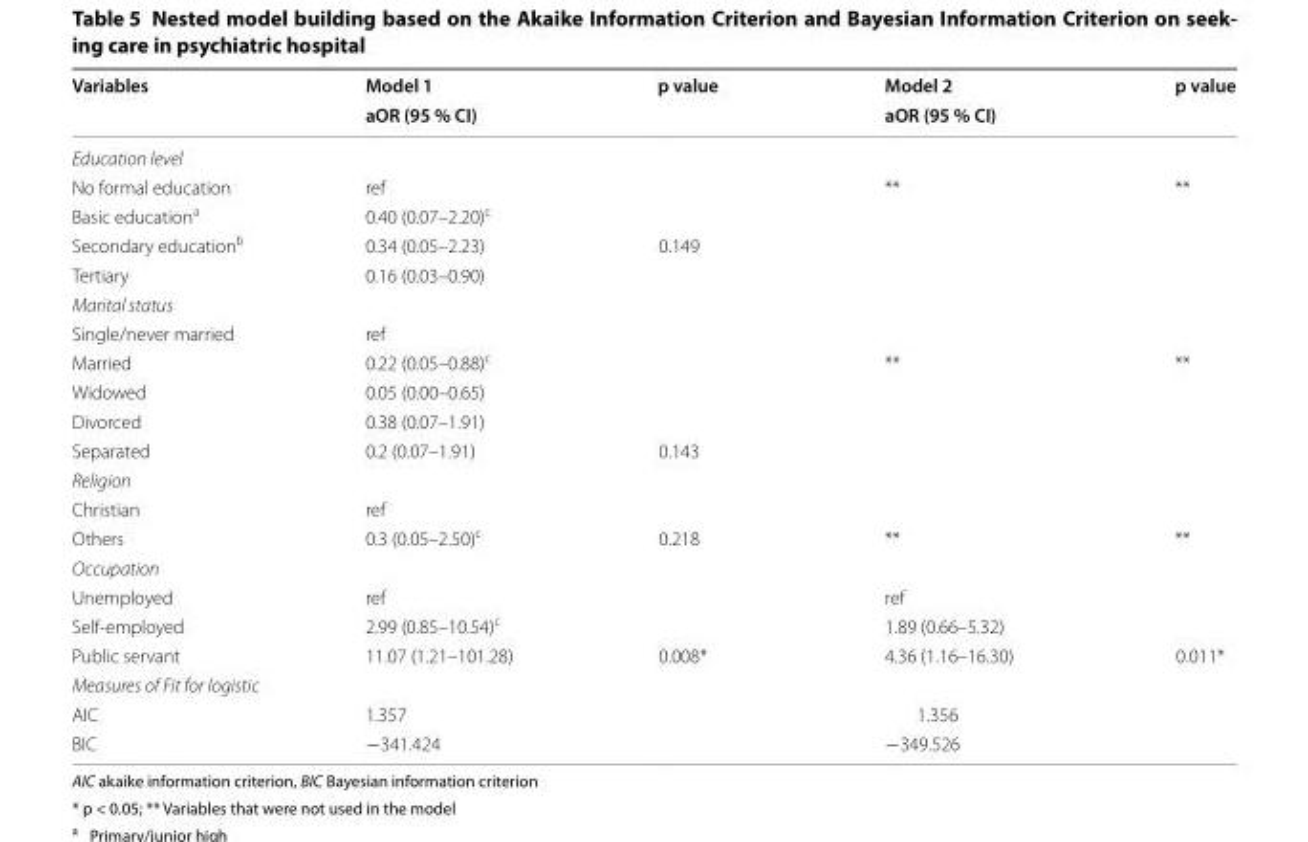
<table><thead><tr><td rowspan="2">Variables</td><td rowspan="2">Model 1 aOR (95 % CI)</td><td rowspan="2">p value</td><td rowspan="2">Model 2 aOR (95 % CI)</td><td rowspan="2">p value</td></tr><tr></tr></thead><tbody><tr><td colspan="5">Education level</td></tr><tr><td>No formal education</td><td>ref</td><td></td><td>**</td><td>**</td></tr><tr><td>Basic education<sup>a</sup></td><td>0.40 (0.07–2.20)<sup>c</sup></td><td></td><td></td><td></td></tr><tr><td>Secondary education<sup>b</sup></td><td>0.34 (0.05–2.23)</td><td>0.149</td><td></td><td></td></tr><tr><td>Tertiary</td><td>0.16 (0.03–0.90)</td><td></td><td></td><td></td></tr><tr><td colspan="5">Marital status</td></tr><tr><td>Single/never married</td><td>ref</td><td></td><td></td><td></td></tr><tr><td>Married</td><td>0.22 (0.05–0.88)<sup>c</sup></td><td></td><td>**</td><td>**</td></tr><tr><td>Widowed</td><td>0.05 (0.00–0.65)</td><td></td><td></td><td></td></tr><tr><td>Divorced</td><td>0.38 (0.07–1.91)</td><td></td><td></td><td></td></tr><tr><td>Separated</td><td>0.2 (0.07–1.91)</td><td>0.143</td><td></td><td></td></tr><tr><td colspan="5">Religion</td></tr><tr><td>Christian</td><td>ref</td><td></td><td></td><td></td></tr><tr><td>Others</td><td>0.3 (0.05–2.50)<sup>c</sup></td><td>0.218</td><td>**</td><td>**</td></tr><tr><td colspan="5">Occupation</td></tr><tr><td>Unemployed</td><td>ref</td><td></td><td>ref</td><td></td></tr><tr><td>Self-employed</td><td>2.99 (0.85–10.54)<sup>c</sup></td><td></td><td>1.89 (0.66–5.32)</td><td></td></tr><tr><td>Public servant</td><td>11.07 (1.21–101.28)</td><td>0.008*</td><td>4.36 (1.16–16.30)</td><td>0.011*</td></tr><tr><td colspan="5">Measures of Fit for logistic</td></tr><tr><td>AIC</td><td>1.357</td><td></td><td>1.356</td><td></td></tr><tr><td>BIC</td><td>−341.424</td><td></td><td>−349.526</td><td></td></tr></tbody></table>